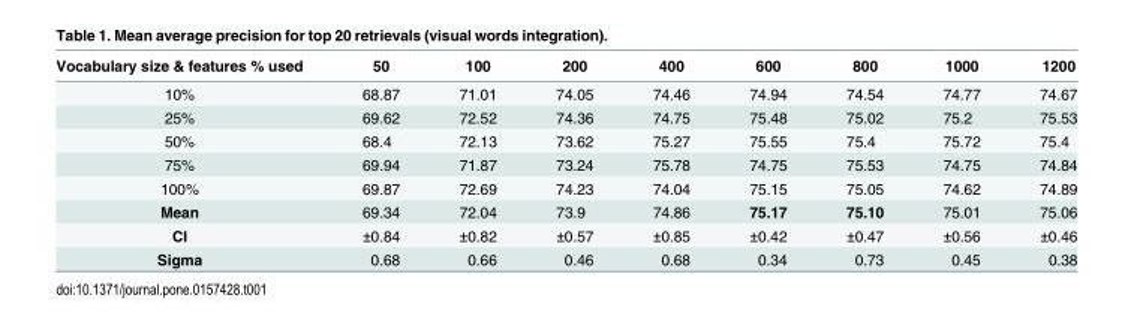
<table><thead><tr><td>Vocabulary size &amp; features % used</td><td>50</td><td>100</td><td>200</td><td>400</td><td>600</td><td>800</td><td>1000</td><td>1200</td></tr></thead><tbody><tr><td>10%</td><td>68.87</td><td>71.01</td><td>74.05</td><td>74.46</td><td>74.94</td><td>74.54</td><td>74.77</td><td>74.67</td></tr><tr><td>25%</td><td>69.62</td><td>72.52</td><td>74.36</td><td>74.75</td><td>75.48</td><td>75.02</td><td>75.2</td><td>75.53</td></tr><tr><td>50%</td><td>68.4</td><td>72.13</td><td>73.62</td><td>75.27</td><td>75.55</td><td>75.4</td><td>75.72</td><td>75.4</td></tr><tr><td>75%</td><td>69.94</td><td>71.87</td><td>73.24</td><td>75.78</td><td>74.75</td><td>75.53</td><td>74.75</td><td>74.84</td></tr><tr><td>100%</td><td>69.87</td><td>72.69</td><td>74.23</td><td>74.04</td><td>75.15</td><td>75.05</td><td>74.62</td><td>74.89</td></tr><tr><td>Mean</td><td>69.34</td><td>72.04</td><td>73.9</td><td>74.86</td><td>75.17</td><td>75.10</td><td>75.01</td><td>75.06</td></tr><tr><td>CI</td><td>±0.84</td><td>±0.82</td><td>±0.57</td><td>±0.85</td><td>±0.42</td><td>±0.47</td><td>±0.56</td><td>±0.46</td></tr><tr><td>Sigma</td><td>0.68</td><td>0.66</td><td>0.46</td><td>0.68</td><td>0.34</td><td>0.73</td><td>0.45</td><td>0.38</td></tr></tbody></table>